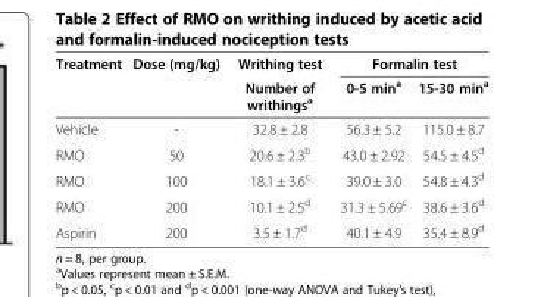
<table><thead><tr><td rowspan="2">Treatment</td><td rowspan="2">Dose (mg/kg)</td><td rowspan="2">Writhing test Number of writhings<sup>a</sup></td><td colspan="2">Formalin test</td></tr><tr><td>0-5 min<sup>a</sup></td><td>15-30 min<sup>a</sup></td></tr></thead><tbody><tr><td>Vehicle</td><td>-</td><td>32.8 ± 2.8</td><td>56.3 ± 5.2</td><td>115.0 ± 8.7</td></tr><tr><td>RMO</td><td>50</td><td>20.6 ± 2.3<sup>b</sup></td><td>43.0 ± 2.92</td><td>54.5 ± 4.5<sup>d</sup></td></tr><tr><td>RMO</td><td>100</td><td>18.1 ± 3.6<sup>c</sup></td><td>39.0 ± 3.0</td><td>54.8 ± 4.3<sup>d</sup></td></tr><tr><td>RMO</td><td>200</td><td>10.1 ± 2.5<sup>d</sup></td><td>31.3 ± 5.69<sup>c</sup></td><td>38.6 ± 3.6<sup>d</sup></td></tr><tr><td>Aspirin</td><td>200</td><td>3.5 ± 1.7<sup>d</sup></td><td>40.1 ± 4.9</td><td>35.4 ± 8.9<sup>d</sup></td></tr></tbody></table>